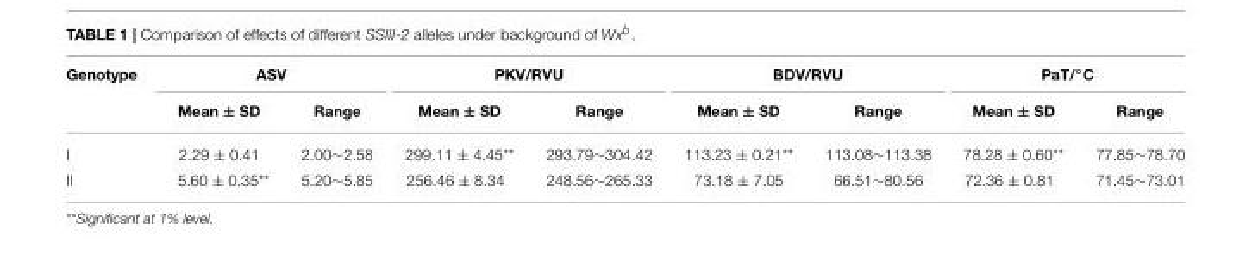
<table><thead><tr><td rowspan="2">Genotype</td><td colspan="2">ASV</td><td colspan="2">PKV/RVU</td><td colspan="2">BDV/RVU</td><td colspan="2">PaT/◦C</td></tr><tr><td>Mean ± SD</td><td>Range</td><td>Mean ± SD</td><td>Range</td><td>Mean ± SD</td><td>Range</td><td>Mean ± SD</td><td>Range</td></tr></thead><tbody><tr><td>I</td><td>2.29 ± 0.41</td><td>2.00∼2.58</td><td>299.11 ± 4.45**</td><td>293.79∼304.42</td><td>113.23 ± 0.21**</td><td>113.08∼113.38</td><td>78.28 ± 0.60**</td><td>77.85∼78.70</td></tr><tr><td>II</td><td>5.60 ± 0.35**</td><td>5.20∼5.85</td><td>256.46 ± 8.34</td><td>248.56∼265.33</td><td>73.18 ± 7.05</td><td>66.51∼80.56</td><td>72.36 ± 0.81</td><td>71.45∼73.01</td></tr></tbody></table>